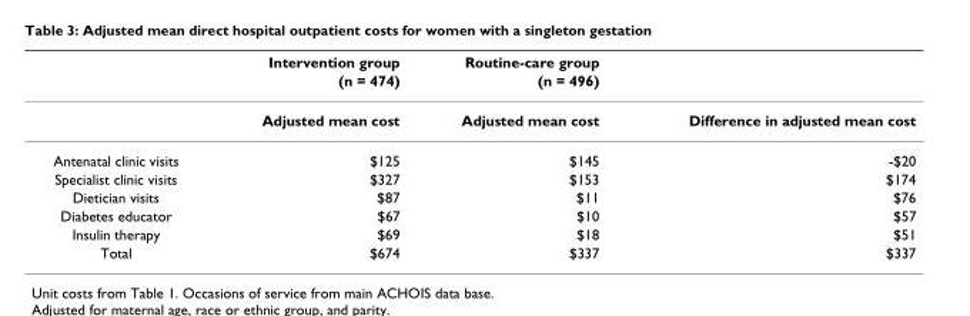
<table><thead><tr><td rowspan="2"></td><td rowspan="2">Intervention group (n = 474)</td><td rowspan="2">Routine-care group (n = 496)</td><td rowspan="2"></td></tr><tr></tr></thead><tbody><tr><td></td><td>Adjusted mean cost</td><td>Adjusted mean cost</td><td>Difference in adjusted mean cost</td></tr><tr><td>Antenatal clinic visits</td><td>$125</td><td>$145</td><td>-$20</td></tr><tr><td>Specialist clinic visits</td><td>$327</td><td>$153</td><td>$174</td></tr><tr><td>Dietician visits</td><td>$87</td><td>$11</td><td>$76</td></tr><tr><td>Diabetes educator</td><td>$67</td><td>$10</td><td>$57</td></tr><tr><td>Insulin therapy</td><td>$69</td><td>$18</td><td>$51</td></tr><tr><td>Total</td><td>$674</td><td>$337</td><td>$337</td></tr></tbody></table>